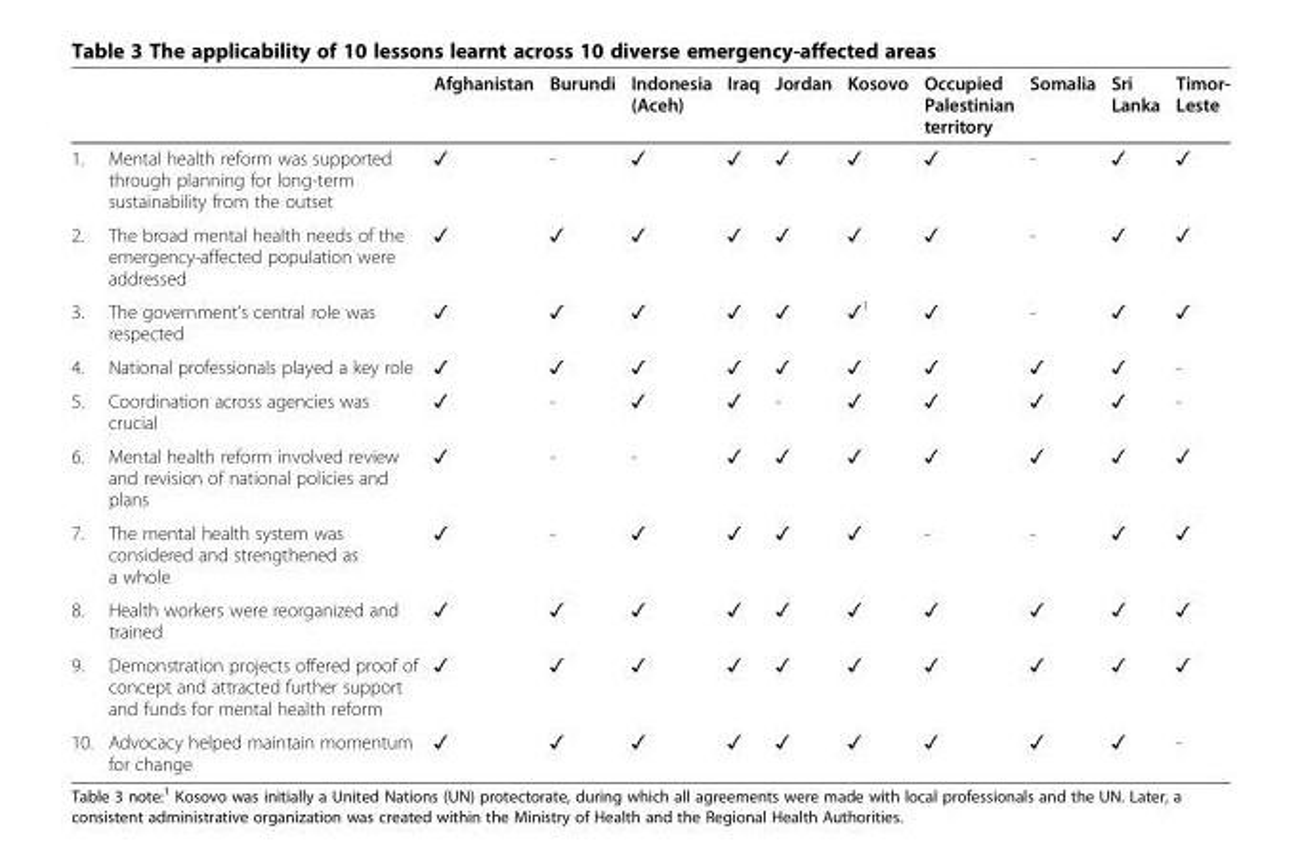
<table><thead><tr><td></td><td></td><td>Afghanistan</td><td>Burundi</td><td>Indonesia (Aceh)</td><td>Iraq</td><td>Jordan</td><td>Kosovo</td><td>Occupied Palestinian territory</td><td>Somalia</td><td>Sri Lanka</td><td>Timor- Leste</td></tr></thead><tbody><tr><td>1.</td><td>Mental health reform was supported through planning for long-term sustainability from the outset</td><td>✓</td><td>-</td><td>✓</td><td>✓</td><td>✓</td><td>✓</td><td>✓</td><td>-</td><td>✓</td><td>✓</td></tr><tr><td>2.</td><td>The broad mental health needs of the emergency-affected population were addressed</td><td>✓</td><td>✓</td><td>✓</td><td>✓</td><td>✓</td><td>✓</td><td>✓</td><td>-</td><td>✓</td><td>✓</td></tr><tr><td>3.</td><td>The government’s central role was respected</td><td>✓</td><td>✓</td><td>✓</td><td>✓</td><td>✓</td><td>✓<sup>1</sup></td><td>✓</td><td>-</td><td>✓</td><td>✓</td></tr><tr><td>4.</td><td>National professionals played a key role</td><td>✓</td><td>✓</td><td>✓</td><td>✓</td><td>✓</td><td>✓</td><td>✓</td><td>✓</td><td>✓</td><td>-</td></tr><tr><td>5.</td><td>Coordination across agencies was crucial</td><td>✓</td><td>-</td><td>✓</td><td>✓</td><td>-</td><td>✓</td><td>✓</td><td>✓</td><td>✓</td><td>-</td></tr><tr><td>6.</td><td>Mental health reform involved review and revision of national policies and plans</td><td>✓</td><td>-</td><td>-</td><td>✓</td><td>✓</td><td>✓</td><td>✓</td><td>✓</td><td>✓</td><td>✓</td></tr><tr><td>7.</td><td>The mental health system was considered and strengthened as a whole</td><td>✓</td><td>-</td><td>✓</td><td>✓</td><td>✓</td><td>✓</td><td>-</td><td>-</td><td>✓</td><td>✓</td></tr><tr><td>8.</td><td>Health workers were reorganized and trained</td><td>✓</td><td>✓</td><td>✓</td><td>✓</td><td>✓</td><td>✓</td><td>✓</td><td>✓</td><td>✓</td><td>✓</td></tr><tr><td>9.</td><td>Demonstration projects offered proof of concept and attracted further support and funds for mental health reform</td><td>✓</td><td>✓</td><td>✓</td><td>✓</td><td>✓</td><td>✓</td><td>✓</td><td>✓</td><td>✓</td><td>✓</td></tr><tr><td>10.</td><td>Advocacy helped maintain momentum for change</td><td>✓</td><td>✓</td><td>✓</td><td>✓</td><td>✓</td><td>✓</td><td>✓</td><td>✓</td><td>✓</td><td>-</td></tr></tbody></table>